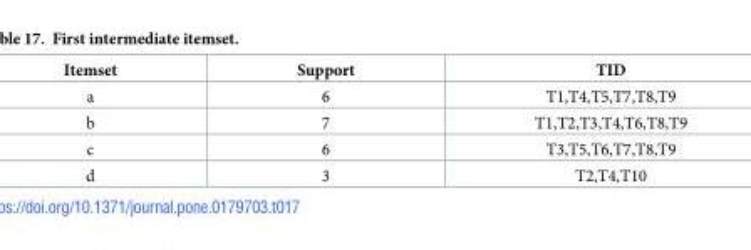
<table><thead><tr><td>Itemset</td><td>Support</td><td>TID</td></tr></thead><tbody><tr><td>a</td><td>6</td><td>T1,T4,T5,T7,T8,T9</td></tr><tr><td>b</td><td>7</td><td>T1,T2,T3,T4,T6,T8,T9</td></tr><tr><td>c</td><td>6</td><td>T3,T5,T6,T7,T8,T9</td></tr><tr><td>d</td><td>3</td><td>T2,T4,T10</td></tr></tbody></table>